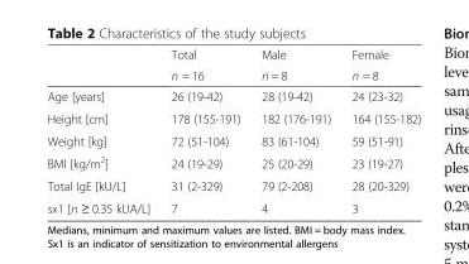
<table><thead><tr><td rowspan="2"></td><td rowspan="2">Total n = 16</td><td rowspan="2">Male n = 8</td><td rowspan="2">Female n = 8</td></tr><tr></tr></thead><tbody><tr><td>Age [years]</td><td>26 (19-42)</td><td>28 (19-42)</td><td>24 (23-32)</td></tr><tr><td>Height [cm]</td><td>178 (155-191)</td><td>182 (176-191)</td><td>164 (155-182)</td></tr><tr><td>Weight [kg]</td><td>72 (51-104)</td><td>83 (61-104)</td><td>59 (51-91)</td></tr><tr><td>BMI [kg/m<sup>2</sup>]</td><td>24 (19-29)</td><td>25 (20-29)</td><td>23 (19-27)</td></tr><tr><td>Total IgE [kU/L]</td><td>31 (2-329)</td><td>79 (2-208)</td><td>28 (20-329)</td></tr><tr><td>sx1 [n ≥ 0.35 kUA/L]</td><td>7</td><td>4</td><td>3</td></tr></tbody></table>